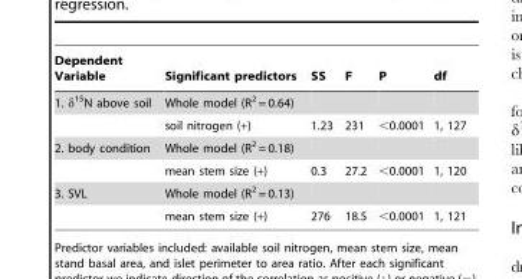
<table><thead><tr><td>Dependent Variable</td><td>Significant predictors</td><td>SS</td><td>F</td><td>P</td><td>df</td></tr></thead><tbody><tr><td rowspan="2">1. δ<sup>15</sup>N above soil</td><td>Whole model (R<sup>2</sup> = 0.64)</td><td></td><td></td><td></td><td></td></tr><tr><td>soil nitrogen (+)</td><td>1.23</td><td>231</td><td>&lt;0.0001</td><td>1, 127</td></tr><tr><td rowspan="2">2. body condition</td><td>Whole model (R<sup>2</sup> = 0.18)</td><td></td><td></td><td></td><td></td></tr><tr><td>mean stem size (+)</td><td>0.3</td><td>27.2</td><td>&lt;0.0001</td><td>1, 120</td></tr><tr><td rowspan="2">3. SVL</td><td>Whole model (R<sup>2</sup> = 0.13)</td><td></td><td></td><td></td><td></td></tr><tr><td>mean stem size (+)</td><td>276</td><td>18.5</td><td>&lt;0.0001</td><td>1, 121</td></tr></tbody></table>